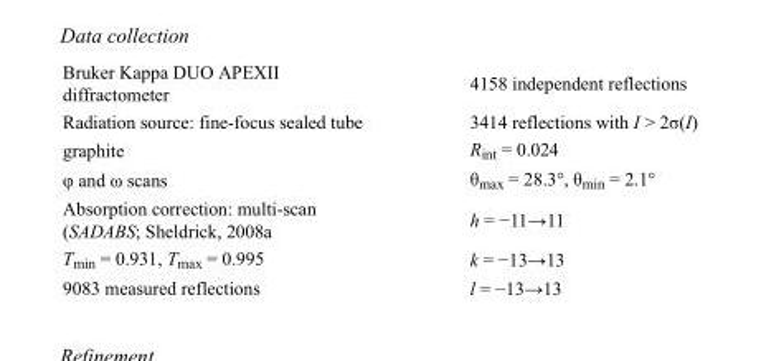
<table><tbody><tr><td>Bruker Kappa DUO APEXII diffractometer</td><td>4158 independent reflections</td></tr><tr><td>Radiation source: fine-focus sealed tube</td><td>3414 reflections with I &gt; 2σ(I)</td></tr><tr><td>graphite</td><td>R<sub>int</sub> = 0.024</td></tr><tr><td>φ and ω scans</td><td>θ<sub>max</sub> = 28.3°, θ<sub>min</sub> = 2.1°</td></tr><tr><td>Absorption correction: multi-scan (SADABS; Sheldrick, 2008a</td><td>h = −11→11</td></tr><tr><td>T<sub>min</sub> = 0.931, T<sub>max</sub> = 0.995</td><td>k = −13→13</td></tr><tr><td>9083 measured reflections</td><td>l = −13→13</td></tr></tbody></table>